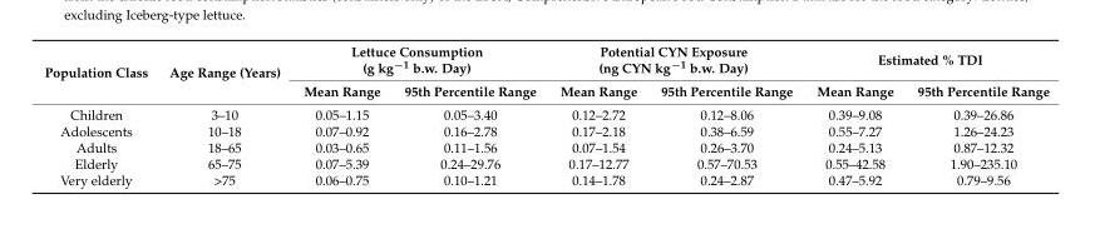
<table><thead><tr><td rowspan="2">Population Class</td><td rowspan="2">Age Range (Years)</td><td colspan="2">Lettuce Consumption (g kg<sup>−1</sup> b.w. Day)</td><td colspan="2">Potential CYN Exposure (ng CYN kg<sup>−1</sup> b.w. Day)</td><td colspan="2">Estimated % TDI</td></tr><tr><td>Mean Range</td><td>95th Percentile Range</td><td>Mean Range</td><td>95th Percentile Range</td><td>Mean Range</td><td>95th Percentile Range</td></tr></thead><tbody><tr><td>Children</td><td>3–10</td><td>0.05–1.15</td><td>0.05–3.40</td><td>0.12–2.72</td><td>0.12–8.06</td><td>0.39–9.08</td><td>0.39–26.86</td></tr><tr><td>Adolescents</td><td>10–18</td><td>0.07–0.92</td><td>0.16–2.78</td><td>0.17–2.18</td><td>0.38–6.59</td><td>0.55–7.27</td><td>1.26–24.23</td></tr><tr><td>Adults</td><td>18–65</td><td>0.03–0.65</td><td>0.11–1.56</td><td>0.07–1.54</td><td>0.26–3.70</td><td>0.24–5.13</td><td>0.87–12.32</td></tr><tr><td>Elderly</td><td>65–75</td><td>0.07–5.39</td><td>0.24–29.76</td><td>0.17–12.77</td><td>0.57–70.53</td><td>0.55–42.58</td><td>1.90–235.10</td></tr><tr><td>Very elderly</td><td>&gt;75</td><td>0.06–0.75</td><td>0.10–1.21</td><td>0.14–1.78</td><td>0.24–2.87</td><td>0.47–5.92</td><td>0.79–9.56</td></tr></tbody></table>